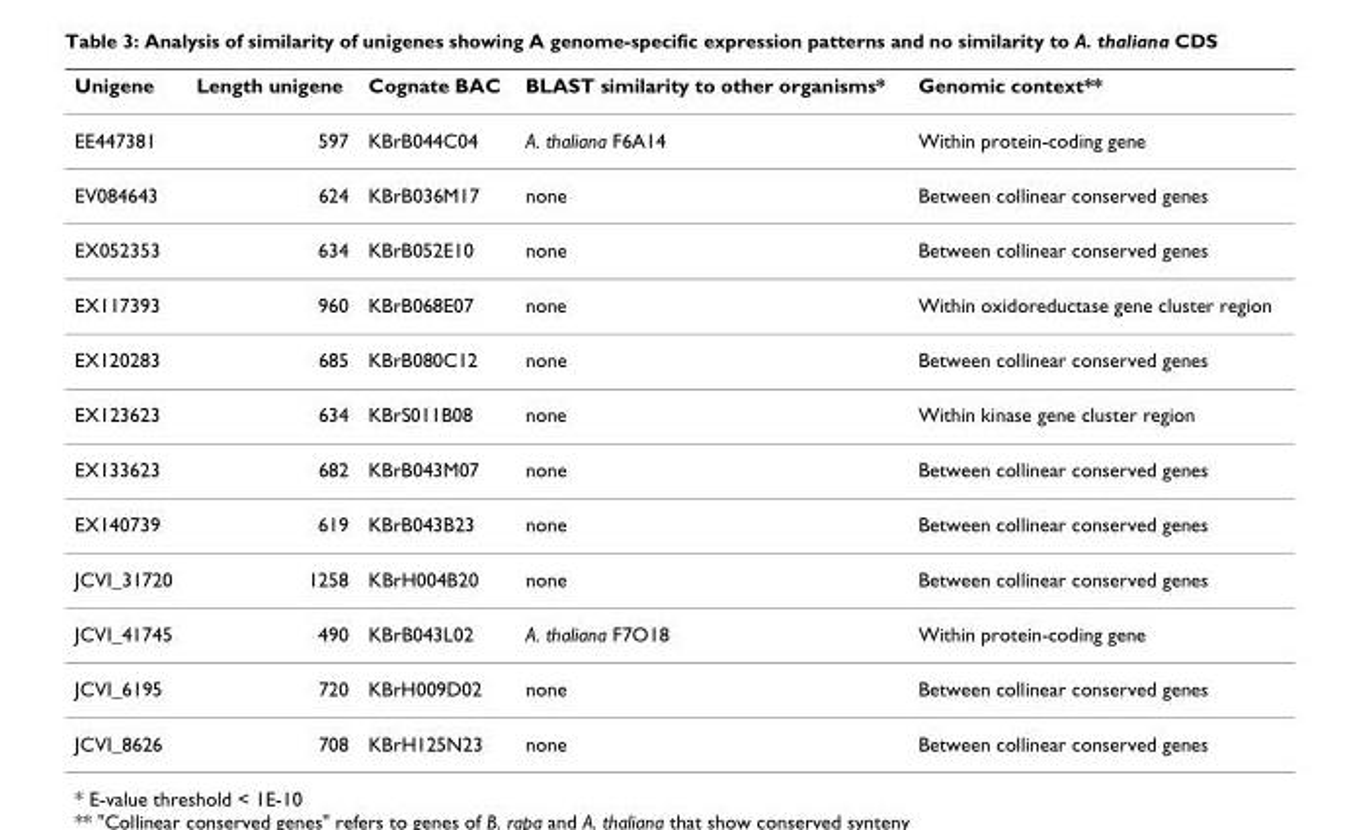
<table><thead><tr><td>Unigene</td><td>Length unigene</td><td>Cognate BAC</td><td>BLAST similarity to other organisms*</td><td>Genomic context**</td></tr></thead><tbody><tr><td>EE447381</td><td>597</td><td>KBrB044C04</td><td>A. thaliana F6A14</td><td>Within protein-coding gene</td></tr><tr><td>EV084643</td><td>624</td><td>KBrB036M17</td><td>none</td><td>Between collinear conserved genes</td></tr><tr><td>EX052353</td><td>634</td><td>KBrB052E10</td><td>none</td><td>Between collinear conserved genes</td></tr><tr><td>EX117393</td><td>960</td><td>KBrB068E07</td><td>none</td><td>Within oxidoreductase gene cluster region</td></tr><tr><td>EX120283</td><td>685</td><td>KBrB080C12</td><td>none</td><td>Between collinear conserved genes</td></tr><tr><td>EX123623</td><td>634</td><td>KBrS011B08</td><td>none</td><td>Within kinase gene cluster region</td></tr><tr><td>EX133623</td><td>682</td><td>KBrB043M07</td><td>none</td><td>Between collinear conserved genes</td></tr><tr><td>EX140739</td><td>619</td><td>KBrB043B23</td><td>none</td><td>Between collinear conserved genes</td></tr><tr><td>JCVI_31720</td><td>1258</td><td>KBrH004B20</td><td>none</td><td>Between collinear conserved genes</td></tr><tr><td>JCVI_41745</td><td>490</td><td>KBrB043L02</td><td>A. thaliana F7O18</td><td>Within protein-coding gene</td></tr><tr><td>JCVI_6195</td><td>720</td><td>KBrH009D02</td><td>none</td><td>Between collinear conserved genes</td></tr><tr><td>JCVI_8626</td><td>708</td><td>KBrH125N23</td><td>none</td><td>Between collinear conserved genes</td></tr></tbody></table>